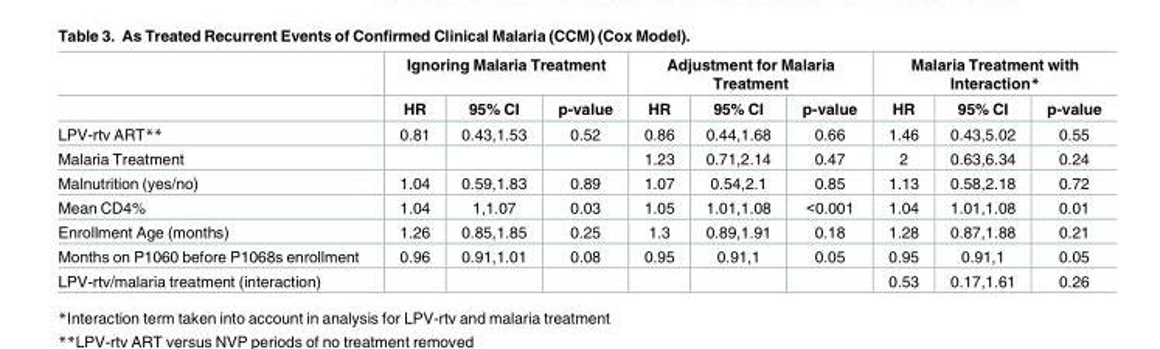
<table><thead><tr><td rowspan="2"></td><td colspan="3">Ignoring Malaria Treatment</td><td colspan="3">Adjustment for Malaria Treatment</td><td colspan="3">Malaria Treatment with Interaction*</td></tr><tr><td>HR</td><td>95% CI</td><td>p-value</td><td>HR</td><td>95% CI</td><td>p-value</td><td>HR</td><td>95% CI</td><td>p-value</td></tr></thead><tbody><tr><td>LPV-rtv ART**</td><td>0.81</td><td>0.43,1.53</td><td>0.52</td><td>0.86</td><td>0.44,1.68</td><td>0.66</td><td>1.46</td><td>0.43,5.02</td><td>0.55</td></tr><tr><td>Malaria Treatment</td><td></td><td></td><td></td><td>1.23</td><td>0.71,2.14</td><td>0.47</td><td>2</td><td>0.63,6.34</td><td>0.24</td></tr><tr><td>Malnutrition (yes/no)</td><td>1.04</td><td>0.59,1.83</td><td>0.89</td><td>1.07</td><td>0.54,2.1</td><td>0.85</td><td>1.13</td><td>0.58,2.18</td><td>0.72</td></tr><tr><td>Mean CD4%</td><td>1.04</td><td>1,1.07</td><td>0.03</td><td>1.05</td><td>1.01,1.08</td><td>&lt;0.001</td><td>1.04</td><td>1.01,1.08</td><td>0.01</td></tr><tr><td>Enrollment Age (months)</td><td>1.26</td><td>0.85,1.85</td><td>0.25</td><td>1.3</td><td>0.89,1.91</td><td>0.18</td><td>1.28</td><td>0.87,1.88</td><td>0.21</td></tr><tr><td>Months on P1060 before P1068s enrollment</td><td>0.96</td><td>0.91,1.01</td><td>0.08</td><td>0.95</td><td>0.91,1</td><td>0.05</td><td>0.95</td><td>0.91,1</td><td>0.05</td></tr><tr><td>LPV-rtv/malaria treatment (interaction)</td><td></td><td></td><td></td><td></td><td></td><td></td><td>0.53</td><td>0.17,1.61</td><td>0.26</td></tr></tbody></table>